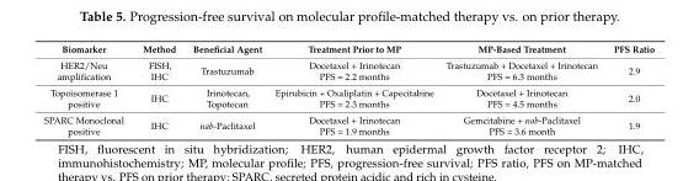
<table><thead><tr><td>Biomarker</td><td>Method</td><td>Beneficial Agent</td><td>Treatment Prior to MP</td><td>MP-Based Treatment</td><td>PFS Ratio</td></tr></thead><tbody><tr><td>HER2/Neu amplification</td><td>FISH, IHC</td><td>Trastuzumab</td><td>Docetaxel + Irinotecan PFS = 2.2 months</td><td>Trastuzumab + Docetaxel + Irinotecan PFS = 6.3 months</td><td>2.9</td></tr><tr><td>Topoisomerase 1 positive</td><td>IHC</td><td>Irinotecan, Topotecan</td><td>Epirubicin + Oxaliplatin + Capecitabine PFS = 2.3 months</td><td>Docetaxel + Irinotecan PFS = 4.5 months</td><td>2.0</td></tr><tr><td>SPARC Monoclonal positive</td><td>IHC</td><td>nab-Paclitaxel</td><td>Docetaxel + Irinotecan PFS = 1.9 months</td><td>Gemcitabine + nab-Paclitaxel PFS = 3.6 month</td><td>1.9</td></tr></tbody></table>